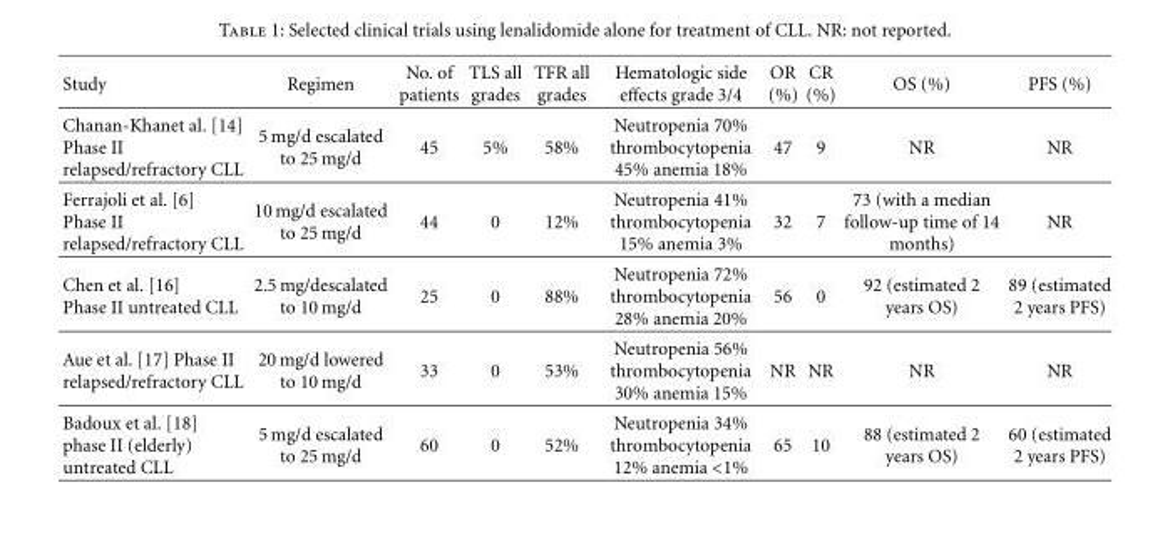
<table><thead><tr><td>Study</td><td>Regimen</td><td>No. of patients</td><td>TLS all grades</td><td>TFR all grades</td><td>Hematologic side effects grade 3/4</td><td>OR (%)</td><td>CR (%)</td><td>OS (%)</td><td>PFS (%)</td></tr></thead><tbody><tr><td>Chanan-Khanet al. [14] Phase II relapsed/refractory CLL</td><td>5 mg/d escalated to 25 mg/d</td><td>45</td><td>5%</td><td>58%</td><td>Neutropenia 70% thrombocytopenia 45% anemia 18%</td><td>47</td><td>9</td><td>NR</td><td>NR</td></tr><tr><td>Ferrajoli et al. [6] Phase II relapsed/refractory CLL</td><td>10 mg/d escalated to 25 mg/d</td><td>44</td><td>0</td><td>12%</td><td>Neutropenia 41% thrombocytopenia 15% anemia 3%</td><td>32</td><td>7</td><td>73 (with a median follow-up time of 14 months)</td><td>NR</td></tr><tr><td>Chen et al. [16] Phase II untreated CLL</td><td>2.5 mg/descalated to 10 mg/d</td><td>25</td><td>0</td><td>88%</td><td>Neutropenia 72% thrombocytopenia 28% anemia 20%</td><td>56</td><td>0</td><td>92 (estimated 2 years OS)</td><td>89 (estimated 2 years PFS)</td></tr><tr><td>Aue et al. [17] Phase II relapsed/refractory CLL</td><td>20 mg/d lowered to 10 mg/d</td><td>33</td><td>0</td><td>53%</td><td>Neutropenia 56% thrombocytopenia 30% anemia 15%</td><td>NR</td><td>NR</td><td>NR</td><td>NR</td></tr><tr><td>Badoux et al. [18] phase II (elderly) untreated CLL</td><td>5 mg/d escalated to 25 mg/d</td><td>60</td><td>0</td><td>52%</td><td>Neutropenia 34% thrombocytopenia 12% anemia &lt;1%</td><td>65</td><td>10</td><td>88 (estimated 2 years OS)</td><td>60 (estimated 2 years PFS)</td></tr></tbody></table>